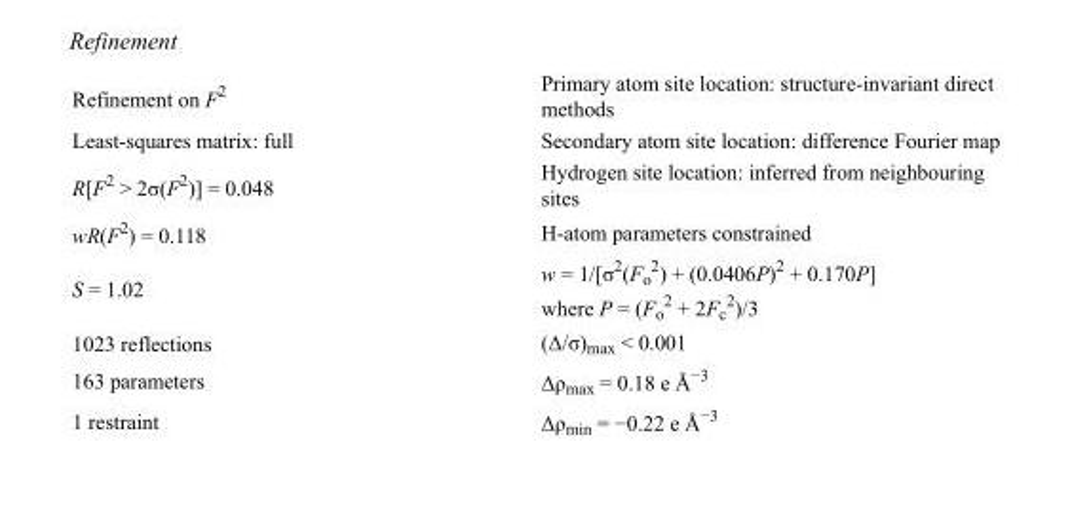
<table><tbody><tr><td>Refinement on F<sup>2</sup></td><td>Primary atom site location: structure-invariant direct methods</td></tr><tr><td>Least-squares matrix: full</td><td>Secondary atom site location: difference Fourier map</td></tr><tr><td>R[F<sup>2</sup> &gt; 2σ(F<sup>2</sup>)] = 0.048</td><td>Hydrogen site location: inferred from neighbouring sites</td></tr><tr><td>wR(F<sup>2</sup>) = 0.118</td><td>H-atom parameters constrained</td></tr><tr><td>S = 1.02</td><td>w = 1/[σ<sup>2</sup>(F<sub>o</sub> <sup>2</sup>) + (0.0406P)<sup>2</sup> + 0.170P] where P = (F<sub>o</sub> <sup>2</sup> + 2F<sub>c</sub> <sup>2</sup>)/3</td></tr><tr><td>1023 reflections</td><td>(Δ/σ)<sub>max</sub> &lt; 0.001</td></tr><tr><td>163 parameters</td><td>Δρ<sub>max</sub> = 0.18 e Å<sup>−3</sup></td></tr><tr><td>1 restraint</td><td>Δρ<sub>min</sub> = −0.22 e Å<sup>−3</sup></td></tr></tbody></table>